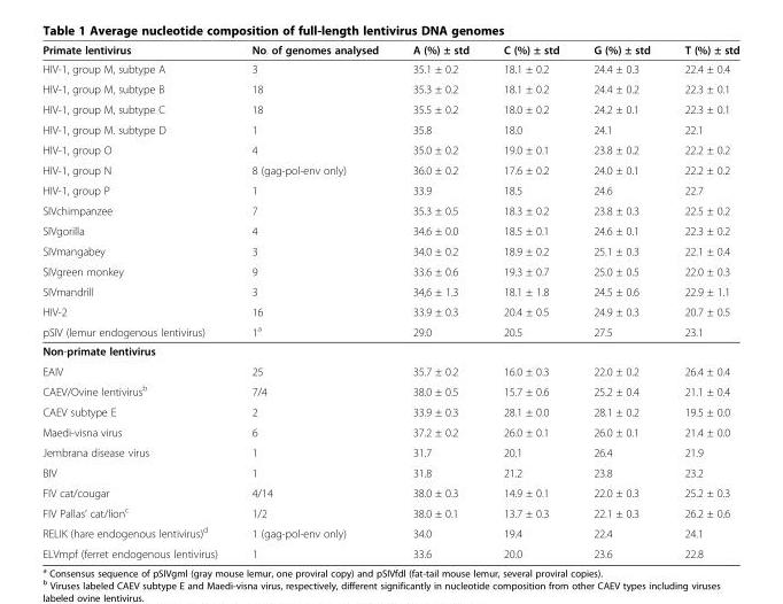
<table><thead><tr><td>Primate lentivirus</td><td>No. of genomes analysed</td><td>A (%) ± std</td><td>C (%) ± std</td><td>G (%) ± std</td><td>T (%) ± std</td></tr></thead><tbody><tr><td>HIV-1, group M, subtype A</td><td>3</td><td>35.1 ± 0.2</td><td>18.1 ± 0.2</td><td>24.4 ± 0.3</td><td>22.4 ± 0.4</td></tr><tr><td>HIV-1, group M, subtype B</td><td>18</td><td>35.3 ± 0.2</td><td>18.1 ± 0.2</td><td>24.4 ± 0.2</td><td>22.3 ± 0.1</td></tr><tr><td>HIV-1, group M, subtype C</td><td>18</td><td>35.5 ± 0.2</td><td>18.0 ± 0.2</td><td>24.2 ± 0.1</td><td>22.3 ± 0.1</td></tr><tr><td>HIV-1, group M. subtype D</td><td>1</td><td>35.8</td><td>18.0</td><td>24.1</td><td>22.1</td></tr><tr><td>HIV-1, group O</td><td>4</td><td>35.0 ± 0.2</td><td>19.0 ± 0.1</td><td>23.8 ± 0.2</td><td>22.2 ± 0.2</td></tr><tr><td>HIV-1, group N</td><td>8 (gag-pol-env only)</td><td>36.0 ± 0.2</td><td>17.6 ± 0.2</td><td>24.0 ± 0.1</td><td>22.2 ± 0.2</td></tr><tr><td>HIV-1, group P</td><td>1</td><td>33.9</td><td>18.5</td><td>24.6</td><td>22.7</td></tr><tr><td>SIVchimpanzee</td><td>7</td><td>35.3 ± 0.5</td><td>18.3 ± 0.2</td><td>23.8 ± 0.3</td><td>22.5 ± 0.2</td></tr><tr><td>SIVgorilla</td><td>4</td><td>34.6 ± 0.0</td><td>18.5 ± 0.1</td><td>24.6 ± 0.1</td><td>22.3 ± 0.2</td></tr><tr><td>SIVmangabey</td><td>3</td><td>34.0 ± 0.2</td><td>18.9 ± 0.2</td><td>25.1 ± 0.3</td><td>22.1 ± 0.4</td></tr><tr><td>SIVgreen monkey</td><td>9</td><td>33.6 ± 0.6</td><td>19.3 ± 0.7</td><td>25.0 ± 0.5</td><td>22.0 ± 0.3</td></tr><tr><td>SIVmandrill</td><td>3</td><td>34,6 ± 1.3</td><td>18.1 ± 1.8</td><td>24.5 ± 0.6</td><td>22.9 ± 1.1</td></tr><tr><td>HIV-2</td><td>16</td><td>33.9 ± 0.3</td><td>20.4 ± 0.5</td><td>24.9 ± 0.3</td><td>20.7 ± 0.5</td></tr><tr><td>pSIV (lemur endogenous lentivirus)</td><td>1<sup>a</sup></td><td>29.0</td><td>20.5</td><td>27.5</td><td>23.1</td></tr><tr><td colspan="6">Non-primate lentivirus</td></tr><tr><td>EAIV</td><td>25</td><td>35.7 ± 0.2</td><td>16.0 ± 0.3</td><td>22.0 ± 0.2</td><td>26.4 ± 0.4</td></tr><tr><td>CAEV/Ovine lentivirus<sup>b</sup></td><td>7/4</td><td>38.0 ± 0.5</td><td>15.7 ± 0.6</td><td>25.2 ± 0.4</td><td>21.1 ± 0.4</td></tr><tr><td>CAEV subtype E</td><td>2</td><td>33.9 ± 0.3</td><td>28.1 ± 0.0</td><td>28.1 ± 0.2</td><td>19.5 ± 0.0</td></tr><tr><td>Maedi-visna virus</td><td>6</td><td>37.2 ± 0.2</td><td>26.0 ± 0.1</td><td>26.0 ± 0.1</td><td>21.4 ± 0.0</td></tr><tr><td>Jembrana disease virus</td><td>1</td><td>31.7</td><td>20.1</td><td>26.4</td><td>21.9</td></tr><tr><td>BIV</td><td>1</td><td>31.8</td><td>21.2</td><td>23.8</td><td>23.2</td></tr><tr><td>FIV cat/cougar</td><td>4/14</td><td>38.0 ± 0.3</td><td>14.9 ± 0.1</td><td>22.0 ± 0.3</td><td>25.2 ± 0.3</td></tr><tr><td>FIV Pallas’ cat/lion<sup>c</sup></td><td>1/2</td><td>38.0 ± 0.1</td><td>13.7 ± 0.3</td><td>22.1 ± 0.3</td><td>26.2 ± 0.6</td></tr><tr><td>RELIK (hare endogenous lentivirus)<sup>d</sup></td><td>1 (gag-pol-env only)</td><td>34.0</td><td>19.4</td><td>22.4</td><td>24.1</td></tr><tr><td>ELVmpf (ferret endogenous lentivirus)</td><td>1</td><td>33.6</td><td>20.0</td><td>23.6</td><td>22.8</td></tr></tbody></table>